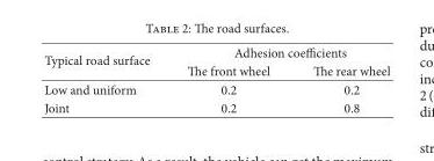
<table><thead><tr><td rowspan="2">Typical road surface</td><td colspan="2">Adhesion coefficients</td></tr><tr><td>The front wheel</td><td>The rear wheel</td></tr></thead><tbody><tr><td>Low and uniform</td><td>0.2</td><td>0.2</td></tr><tr><td>Joint</td><td>0.2</td><td>0.8</td></tr></tbody></table>